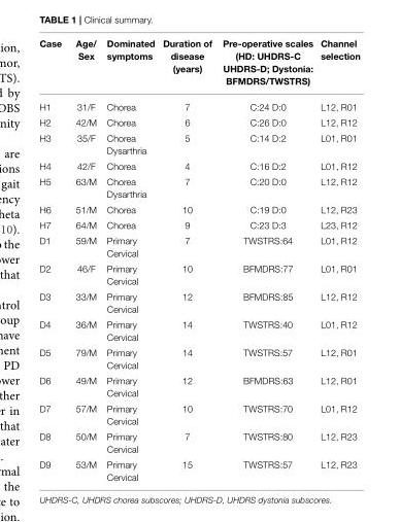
<table><thead><tr><td>Case</td><td>Age/ Sex</td><td>Dominated symptoms</td><td>Duration of disease (years)</td><td>Pre-operative scales (HD: UHDRS-C UHDRS-D; Dystonia: BFMDRS/TWSTRS)</td><td>Channel selection</td></tr></thead><tbody><tr><td>H1</td><td>31/F</td><td>Chorea</td><td>7</td><td>C:24 D:0</td><td>L12, R01</td></tr><tr><td>H2</td><td>42/M</td><td>Chorea</td><td>6</td><td>C:26 D:0</td><td>L12, R12</td></tr><tr><td>H3</td><td>35/F</td><td>Chorea Dysarthria</td><td>5</td><td>C:14 D:2</td><td>L01, R01</td></tr><tr><td>H4</td><td>42/F</td><td>Chorea</td><td>4</td><td>C:16 D:2</td><td>L01, R12</td></tr><tr><td>H5</td><td>63/M</td><td>Chorea Dysarthria</td><td>7</td><td>C:20 D:0</td><td>L12, R12</td></tr><tr><td>H6</td><td>51/M</td><td>Chorea</td><td>10</td><td>C:19 D:0</td><td>L12, R23</td></tr><tr><td>H7</td><td>64/M</td><td>Chorea</td><td>9</td><td>C:23 D:3</td><td>L23, R12</td></tr><tr><td>D1</td><td>59/M</td><td>Primary Cervical</td><td>7</td><td>TWSTRS:64</td><td>L01, R12</td></tr><tr><td>D2</td><td>46/F</td><td>Primary Cervical</td><td>10</td><td>BFMDRS:77</td><td>L01, R01</td></tr><tr><td>D3</td><td>33/M</td><td>Primary Cervical</td><td>12</td><td>BFMDRS:85</td><td>L12, R12</td></tr><tr><td>D4</td><td>36/M</td><td>Primary Cervical</td><td>14</td><td>TWSTRS:40</td><td>L01, R12</td></tr><tr><td>D5</td><td>79/M</td><td>Primary Cervical</td><td>14</td><td>TWSTRS:57</td><td>L12, R01</td></tr><tr><td>D6</td><td>49/M</td><td>Primary Cervical</td><td>12</td><td>BFMDRS:63</td><td>L12, R01</td></tr><tr><td>D7</td><td>57/M</td><td>Primary Cervical</td><td>10</td><td>TWSTRS:70</td><td>L01, R12</td></tr><tr><td>D8</td><td>50/M</td><td>Primary Cervical</td><td>7</td><td>TWSTRS:80</td><td>L12, R23</td></tr><tr><td>D9</td><td>53/M</td><td>Primary Cervical</td><td>15</td><td>TWSTRS:57</td><td>L12, R23</td></tr></tbody></table>